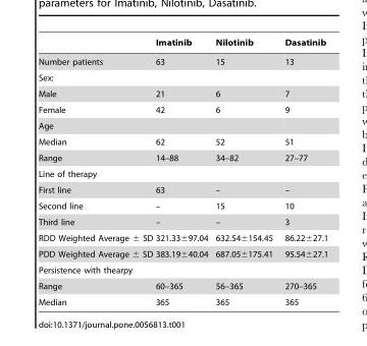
<table><thead><tr><td></td><td>Imatinib</td><td>Nilotinib</td><td>Dasatinib</td></tr></thead><tbody><tr><td>Number patients</td><td>63</td><td>15</td><td>13</td></tr><tr><td colspan="4">Sex:</td></tr><tr><td>Male</td><td>21</td><td>6</td><td>7</td></tr><tr><td>Female</td><td>42</td><td>6</td><td>9</td></tr><tr><td colspan="4">Age</td></tr><tr><td>Median</td><td>62</td><td>52</td><td>51</td></tr><tr><td>Range</td><td>14–88</td><td>34–82</td><td>27–77</td></tr><tr><td colspan="4">Line of therapy</td></tr><tr><td>First line</td><td>63</td><td>–</td><td>–</td></tr><tr><td>Second line</td><td>–</td><td>15</td><td>10</td></tr><tr><td>Third line</td><td>–</td><td>–</td><td>3</td></tr><tr><td>RDD Weighted Average ± SD</td><td>321.33±97.04</td><td>632.54±154.45</td><td>86.22±27.1</td></tr><tr><td>PDD Weighted Average ± SD</td><td>383.19±40.04</td><td>687.05±175.41</td><td>95.54±27.1</td></tr><tr><td colspan="4">Persistence with thearpy</td></tr><tr><td>Range</td><td>60–365</td><td>56–365</td><td>270–365</td></tr><tr><td>Median</td><td>365</td><td>365</td><td>365</td></tr></tbody></table>